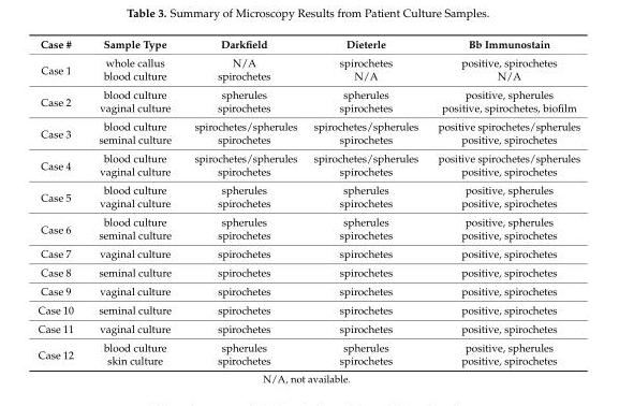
<table><thead><tr><td>Case #</td><td>Sample Type</td><td>Darkfield</td><td>Dieterle</td><td>Bb Immunostain</td></tr></thead><tbody><tr><td rowspan="2">Case 1</td><td>whole callus</td><td>N/A</td><td>spirochetes</td><td>positive, spirochetes</td></tr><tr><td>blood culture</td><td>spirochetes</td><td>N/A</td><td>N/A</td></tr><tr><td rowspan="2">Case 2</td><td>blood culture</td><td>spherules</td><td>spherules</td><td>positive, spherules</td></tr><tr><td>vaginal culture</td><td>spirochetes</td><td>spirochetes</td><td>positive, spirochetes, biofilm</td></tr><tr><td rowspan="2">Case 3</td><td>blood culture</td><td>spirochetes/spherules</td><td>spirochetes/spherules</td><td>positive spirochetes/spherules</td></tr><tr><td>seminal culture</td><td>spirochetes</td><td>spirochetes</td><td>positive, spirochetes</td></tr><tr><td rowspan="2">Case 4</td><td>blood culture</td><td>spirochetes/spherules</td><td>spirochetes/spherules</td><td>positive spirochetes/spherules</td></tr><tr><td>vaginal culture</td><td>spirochetes</td><td>spirochetes</td><td>positive, spirochetes</td></tr><tr><td rowspan="2">Case 5</td><td>blood culture</td><td>spherules</td><td>spherules</td><td>positive, spherules</td></tr><tr><td>vaginal culture</td><td>spirochetes</td><td>spirochetes</td><td>positive, spirochetes</td></tr><tr><td rowspan="2">Case 6</td><td>blood culture</td><td>spherules</td><td>spherules</td><td>positive, spherules</td></tr><tr><td>seminal culture</td><td>spirochetes</td><td>spirochetes</td><td>positive, spirochetes</td></tr><tr><td>Case 7</td><td>vaginal culture</td><td>spirochetes</td><td>spirochetes</td><td>positive, spirochetes</td></tr><tr><td>Case 8</td><td>seminal culture</td><td>spirochetes</td><td>spirochetes</td><td>positive, spirochetes</td></tr><tr><td>Case 9</td><td>vaginal culture</td><td>spirochetes</td><td>spirochetes</td><td>positive, spirochetes</td></tr><tr><td>Case 10</td><td>seminal culture</td><td>spirochetes</td><td>spirochetes</td><td>positive, spirochetes</td></tr><tr><td>Case 11</td><td>vaginal culture</td><td>spirochetes</td><td>spirochetes</td><td>positive, spirochetes</td></tr><tr><td rowspan="2">Case 12</td><td>blood culture</td><td>spherules</td><td>spherules</td><td>positive, spherules</td></tr><tr><td>skin culture</td><td>spirochetes</td><td>spirochetes</td><td>positive, spirochetes</td></tr></tbody></table>